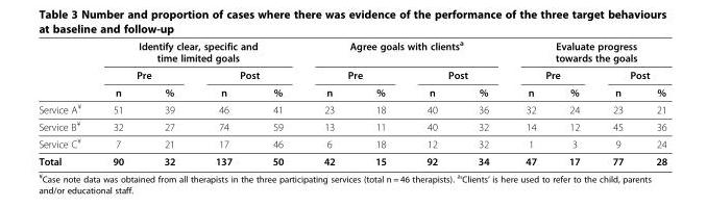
<table><thead><tr><td rowspan="3"></td><td colspan="4">Identify clear, specific and time limited goals</td><td colspan="4">Agree goals with clients<sup>a</sup></td><td colspan="4">Evaluate progress towards the goals</td></tr><tr><td colspan="2">Pre</td><td colspan="2">Post</td><td colspan="2">Pre</td><td colspan="2">Post</td><td colspan="2">Pre</td><td colspan="2">Post</td></tr><tr><td>n</td><td>%</td><td>n</td><td>%</td><td>n</td><td>%</td><td>n</td><td>%</td><td>n</td><td>%</td><td>n</td><td>%</td></tr></thead><tbody><tr><td>Service A<sup>¥</sup></td><td>51</td><td>39</td><td>46</td><td>41</td><td>23</td><td>18</td><td>40</td><td>36</td><td>32</td><td>24</td><td>23</td><td>21</td></tr><tr><td>Service B<sup>¥</sup></td><td>32</td><td>27</td><td>74</td><td>59</td><td>13</td><td>11</td><td>40</td><td>32</td><td>14</td><td>12</td><td>45</td><td>36</td></tr><tr><td>Service C<sup>¥</sup></td><td>7</td><td>21</td><td>17</td><td>46</td><td>6</td><td>18</td><td>12</td><td>32</td><td>1</td><td>3</td><td>9</td><td>24</td></tr><tr><td>Total</td><td>90</td><td>32</td><td>137</td><td>50</td><td>42</td><td>15</td><td>92</td><td>34</td><td>47</td><td>17</td><td>77</td><td>28</td></tr></tbody></table>